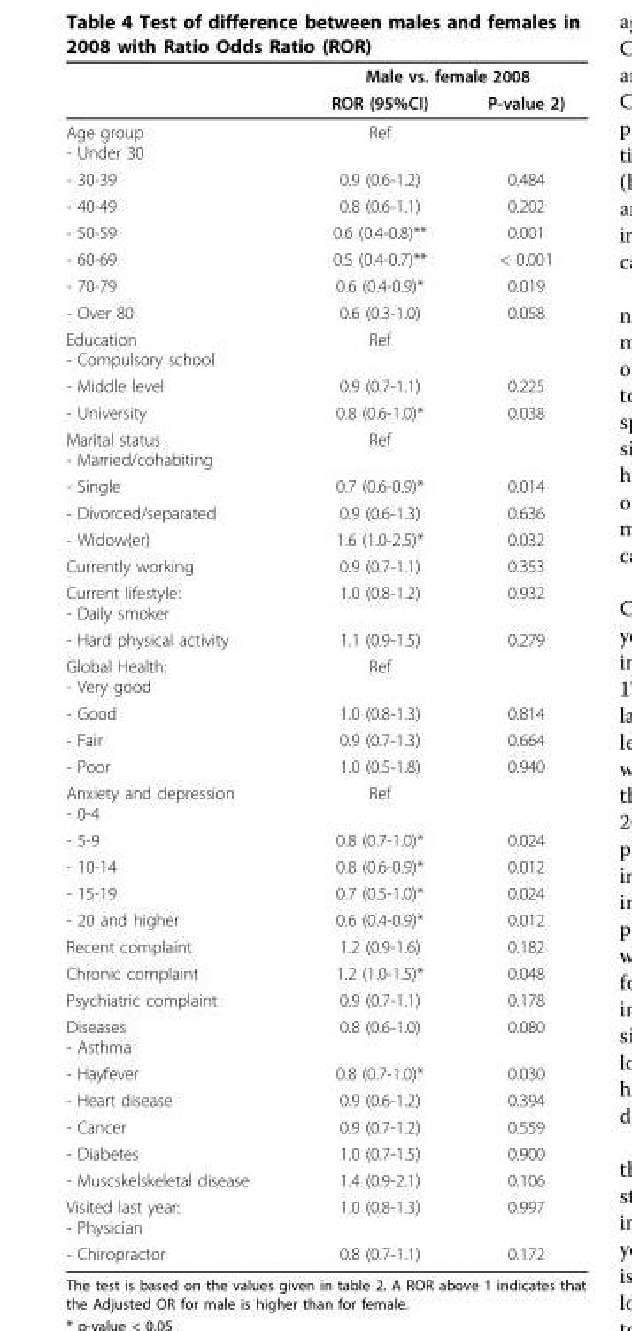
<table><thead><tr><td rowspan="2"></td><td colspan="2">Male vs. female 2008</td></tr><tr><td>ROR (95%CI)</td><td>P-value 2)</td></tr></thead><tbody><tr><td>Age group - Under 30</td><td>Ref</td><td></td></tr><tr><td>- 30-39</td><td>0.9 (0.6-1.2)</td><td>0.484</td></tr><tr><td>- 40-49</td><td>0.8 (0.6-1.1)</td><td>0.202</td></tr><tr><td>- 50-59</td><td>0.6 (0.4-0.8)**</td><td>0.001</td></tr><tr><td>- 60-69</td><td>0.5 (0.4-0.7)**</td><td>&lt; 0.001</td></tr><tr><td>- 70-79</td><td>0.6 (0.4-0.9)*</td><td>0.019</td></tr><tr><td>- Over 80</td><td>0.6 (0.3-1.0)</td><td>0.058</td></tr><tr><td>Education - Compulsory school</td><td>Ref</td><td></td></tr><tr><td>- Middle level</td><td>0.9 (0.7-1.1)</td><td>0.225</td></tr><tr><td>- University</td><td>0.8 (0.6-1.0)*</td><td>0.038</td></tr><tr><td>Marital status - Married/cohabiting</td><td>Ref</td><td></td></tr><tr><td>- Single</td><td>0.7 (0.6-0.9)*</td><td>0.014</td></tr><tr><td>- Divorced/separated</td><td>0.9 (0.6-1.3)</td><td>0.636</td></tr><tr><td>- Widow(er)</td><td>1.6 (1.0-2.5)*</td><td>0.032</td></tr><tr><td>Currently working</td><td>0.9 (0.7-1.1)</td><td>0.353</td></tr><tr><td>Current lifestyle: - Daily smoker</td><td>1.0 (0.8-1.2)</td><td>0.932</td></tr><tr><td>- Hard physical activity</td><td>1.1 (0.9-1.5)</td><td>0.279</td></tr><tr><td>Global Health: - Very good</td><td>Ref</td><td></td></tr><tr><td>- Good</td><td>1.0 (0.8-1.3)</td><td>0.814</td></tr><tr><td>- Fair</td><td>0.9 (0.7-1.3)</td><td>0.664</td></tr><tr><td>- Poor</td><td>1.0 (0.5-1.8)</td><td>0.940</td></tr><tr><td>Anxiety and depression - 0-4</td><td>Ref</td><td></td></tr><tr><td>- 5-9</td><td>0.8 (0.7-1.0)*</td><td>0.024</td></tr><tr><td>- 10-14</td><td>0.8 (0.6-0.9)*</td><td>0.012</td></tr><tr><td>- 15-19</td><td>0.7 (0.5-1.0)*</td><td>0.024</td></tr><tr><td>- 20 and higher</td><td>0.6 (0.4-0.9)*</td><td>0.012</td></tr><tr><td>Recent complaint</td><td>1.2 (0.9-1.6)</td><td>0.182</td></tr><tr><td>Chronic complaint</td><td>1.2 (1.0-1.5)*</td><td>0.048</td></tr><tr><td>Psychiatric complaint</td><td>0.9 (0.7-1.1)</td><td>0.178</td></tr><tr><td>Diseases - Asthma</td><td>0.8 (0.6-1.0)</td><td>0.080</td></tr><tr><td>- Hayfever</td><td>0.8 (0.7-1.0)*</td><td>0.030</td></tr><tr><td>- Heart disease</td><td>0.9 (0.6-1.2)</td><td>0.394</td></tr><tr><td>- Cancer</td><td>0.9 (0.7-1.2)</td><td>0.559</td></tr><tr><td>- Diabetes</td><td>1.0 (0.7-1.5)</td><td>0.900</td></tr><tr><td>- Muscskelskeletal disease</td><td>1.4 (0.9-2.1)</td><td>0.106</td></tr><tr><td>Visited last year: - Physician</td><td>1.0 (0.8-1.3)</td><td>0.997</td></tr><tr><td>- Chiropractor</td><td>0.8 (0.7-1.1)</td><td>0.172</td></tr></tbody></table>